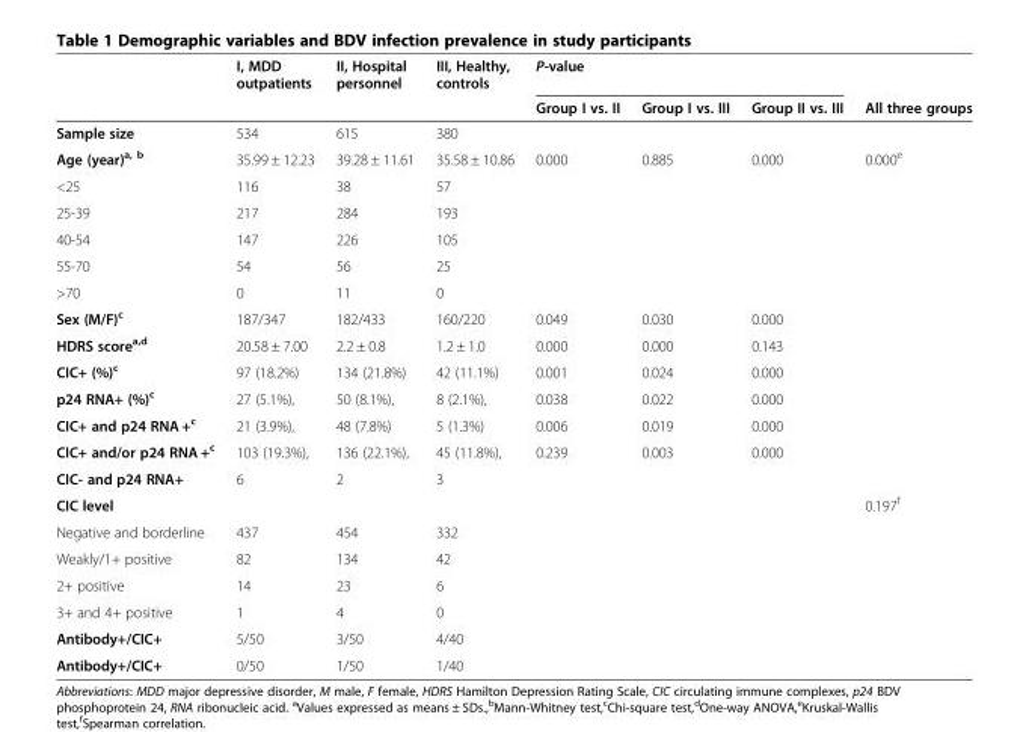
<table><thead><tr><td rowspan="2"></td><td rowspan="2">I, MDD outpatients</td><td rowspan="2">II, Hospital personnel</td><td rowspan="2">III, Healthy, controls</td><td colspan="3">P-value</td><td rowspan="2">All three groups</td></tr><tr><td>Group I vs. II</td><td>Group I vs. III</td><td>Group II vs. III</td></tr></thead><tbody><tr><td>Sample size</td><td>534</td><td>615</td><td>380</td><td></td><td></td><td></td><td></td></tr><tr><td>Age (year)<sup>a, b</sup></td><td>35.99 ± 12.23</td><td>39.28 ± 11.61</td><td>35.58 ± 10.86</td><td>0.000</td><td>0.885</td><td>0.000</td><td>0.000<sup>e</sup></td></tr><tr><td>&lt;25</td><td>116</td><td>38</td><td>57</td><td></td><td></td><td></td><td></td></tr><tr><td>25-39</td><td>217</td><td>284</td><td>193</td><td></td><td></td><td></td><td></td></tr><tr><td>40-54</td><td>147</td><td>226</td><td>105</td><td></td><td></td><td></td><td></td></tr><tr><td>55-70</td><td>54</td><td>56</td><td>25</td><td></td><td></td><td></td><td></td></tr><tr><td>&gt;70</td><td>0</td><td>11</td><td>0</td><td></td><td></td><td></td><td></td></tr><tr><td>Sex (M/F)<sup>c</sup></td><td>187/347</td><td>182/433</td><td>160/220</td><td>0.049</td><td>0.030</td><td>0.000</td><td></td></tr><tr><td>HDRS score<sup>a,d</sup></td><td>20.58 ± 7.00</td><td>2.2 ± 0.8</td><td>1.2 ± 1.0</td><td>0.000</td><td>0.000</td><td>0.143</td><td></td></tr><tr><td>CIC+ (%)<sup>c</sup></td><td>97 (18.2%)</td><td>134 (21.8%)</td><td>42 (11.1%)</td><td>0.001</td><td>0.024</td><td>0.000</td><td></td></tr><tr><td>p24 RNA+ (%)<sup>c</sup></td><td>27 (5.1%),</td><td>50 (8.1%),</td><td>8 (2.1%),</td><td>0.038</td><td>0.022</td><td>0.000</td><td></td></tr><tr><td>CIC+ and p24 RNA +<sup>c</sup></td><td>21 (3.9%),</td><td>48 (7.8%)</td><td>5 (1.3%)</td><td>0.006</td><td>0.019</td><td>0.000</td><td></td></tr><tr><td>CIC+ and/or p24 RNA +<sup>c</sup></td><td>103 (19.3%),</td><td>136 (22.1%),</td><td>45 (11.8%),</td><td>0.239</td><td>0.003</td><td>0.000</td><td></td></tr><tr><td>CIC- and p24 RNA+</td><td>6</td><td>2</td><td>3</td><td></td><td></td><td></td><td></td></tr><tr><td>CIC level</td><td></td><td></td><td></td><td></td><td></td><td></td><td>0.197<sup>f</sup></td></tr><tr><td>Negative and borderline</td><td>437</td><td>454</td><td>332</td><td></td><td></td><td></td><td></td></tr><tr><td>Weakly/1+ positive</td><td>82</td><td>134</td><td>42</td><td></td><td></td><td></td><td></td></tr><tr><td>2+ positive</td><td>14</td><td>23</td><td>6</td><td></td><td></td><td></td><td></td></tr><tr><td>3+ and 4+ positive</td><td>1</td><td>4</td><td>0</td><td></td><td></td><td></td><td></td></tr><tr><td>Antibody+/CIC+</td><td>5/50</td><td>3/50</td><td>4/40</td><td></td><td></td><td></td><td></td></tr><tr><td>Antibody+/CIC+</td><td>0/50</td><td>1/50</td><td>1/40</td><td></td><td></td><td></td><td></td></tr></tbody></table>